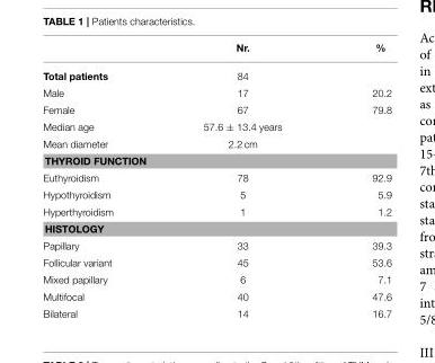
<table><thead><tr><td></td><td>Nr.</td><td>%</td></tr></thead><tbody><tr><td>Total patients</td><td>84</td><td></td></tr><tr><td>Male</td><td>17</td><td>20.2</td></tr><tr><td>Female</td><td>67</td><td>79.8</td></tr><tr><td>Median age</td><td>57.6 ± 13.4 years</td><td></td></tr><tr><td>Mean diameter</td><td>2.2 cm</td><td></td></tr><tr><td colspan="3">THYROID FUNCTION</td></tr><tr><td>Euthyroidism</td><td>78</td><td>92.9</td></tr><tr><td>Hypothyroidism</td><td>5</td><td>5.9</td></tr><tr><td>Hyperthyroidism</td><td>1</td><td>1.2</td></tr><tr><td colspan="3">HISTOLOGY</td></tr><tr><td>Papillary</td><td>33</td><td>39.3</td></tr><tr><td>Follicular variant</td><td>45</td><td>53.6</td></tr><tr><td>Mixed papillary</td><td>6</td><td>7.1</td></tr><tr><td>Multifocal</td><td>40</td><td>47.6</td></tr><tr><td>Bilateral</td><td>14</td><td>16.7</td></tr></tbody></table>